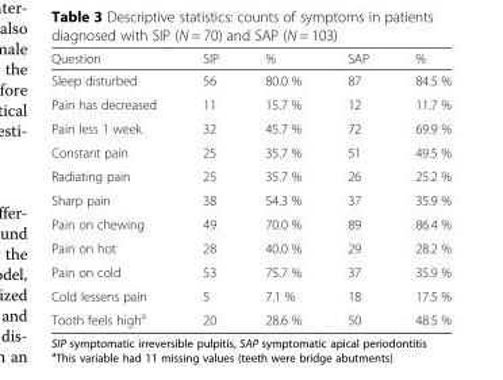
<table><thead><tr><td>Question</td><td>SIP</td><td>%</td><td>SAP</td><td>%</td></tr></thead><tbody><tr><td>Sleep disturbed</td><td>56</td><td>80.0 %</td><td>87</td><td>84.5 %</td></tr><tr><td>Pain has decreased</td><td>11</td><td>15.7 %</td><td>12</td><td>11.7 %</td></tr><tr><td>Pain less 1 week</td><td>32</td><td>45.7 %</td><td>72</td><td>69.9 %</td></tr><tr><td>Constant pain</td><td>25</td><td>35.7 %</td><td>51</td><td>49.5 %</td></tr><tr><td>Radiating pain</td><td>25</td><td>35.7 %</td><td>26</td><td>25.2 %</td></tr><tr><td>Sharp pain</td><td>38</td><td>54.3 %</td><td>37</td><td>35.9 %</td></tr><tr><td>Pain on chewing</td><td>49</td><td>70.0 %</td><td>89</td><td>86.4 %</td></tr><tr><td>Pain on hot</td><td>28</td><td>40.0 %</td><td>29</td><td>28.2 %</td></tr><tr><td>Pain on cold</td><td>53</td><td>75.7 %</td><td>37</td><td>35.9 %</td></tr><tr><td>Cold lessens pain</td><td>5</td><td>7.1 %</td><td>18</td><td>17.5 %</td></tr><tr><td>Tooth feels high<sup>a</sup></td><td>20</td><td>28.6 %</td><td>50</td><td>48.5 %</td></tr></tbody></table>